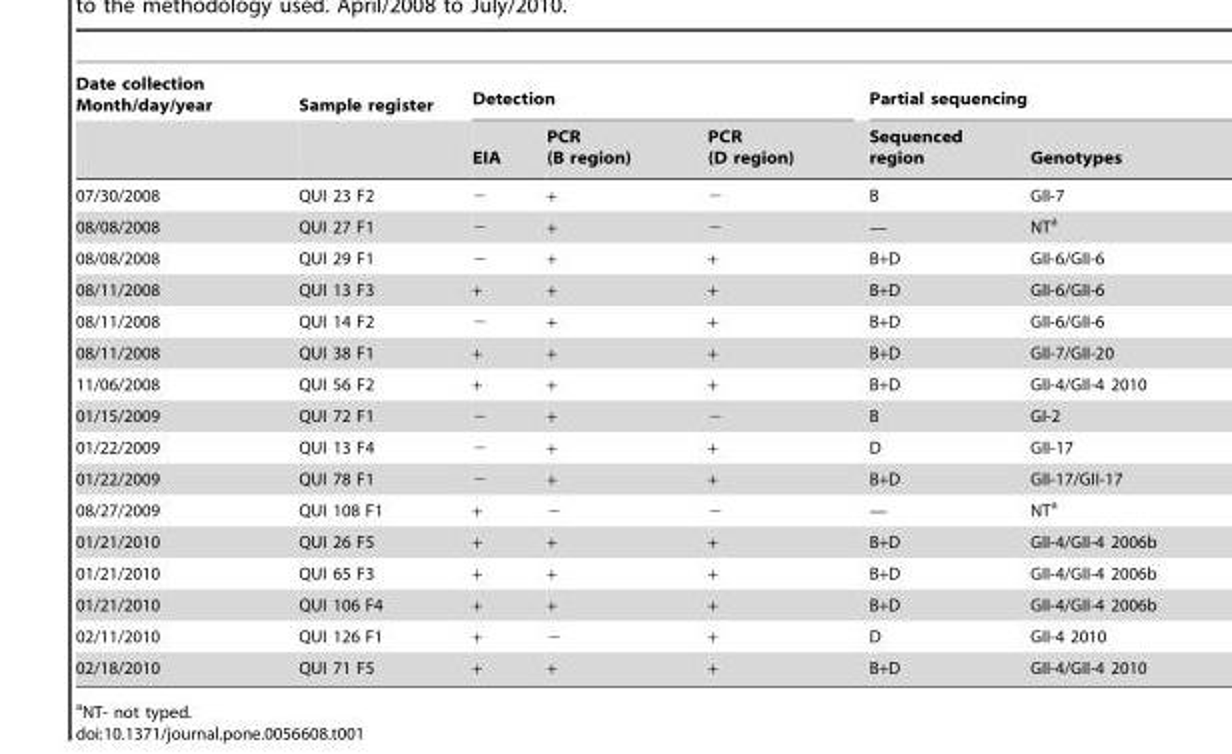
<table><thead><tr><td rowspan="2">Date collection Month/day/year</td><td rowspan="2">Sample register</td><td colspan="3">Detection</td><td colspan="2">Partial sequencing</td></tr><tr><td>EIA</td><td>PCR (B region)</td><td>PCR (D region)</td><td>Sequenced region</td><td>Genotypes</td></tr></thead><tbody><tr><td>07/30/2008</td><td>QUI 23 F2</td><td>−</td><td>+</td><td>−</td><td>B</td><td>GII-7</td></tr><tr><td>08/08/2008</td><td>QUI 27 F1</td><td>−</td><td>+</td><td>−</td><td>—</td><td>NT<sup>a</sup></td></tr><tr><td>08/08/2008</td><td>QUI 29 F1</td><td>−</td><td>+</td><td>+</td><td>B+D</td><td>GII-6/GII-6</td></tr><tr><td>08/11/2008</td><td>QUI 13 F3</td><td>+</td><td>+</td><td>+</td><td>B+D</td><td>GII-6/GII-6</td></tr><tr><td>08/11/2008</td><td>QUI 14 F2</td><td>−</td><td>+</td><td>+</td><td>B+D</td><td>GII-6/GII-6</td></tr><tr><td>08/11/2008</td><td>QUI 38 F1</td><td>+</td><td>+</td><td>+</td><td>B+D</td><td>GII-7/GII-20</td></tr><tr><td>11/06/2008</td><td>QUI 56 F2</td><td>+</td><td>+</td><td>+</td><td>B+D</td><td>GII-4/GII-4 2010</td></tr><tr><td>01/15/2009</td><td>QUI 72 F1</td><td>−</td><td>+</td><td>−</td><td>B</td><td>GI-2</td></tr><tr><td>01/22/2009</td><td>QUI 13 F4</td><td>−</td><td>+</td><td>+</td><td>D</td><td>GII-17</td></tr><tr><td>01/22/2009</td><td>QUI 78 F1</td><td>−</td><td>+</td><td>+</td><td>B+D</td><td>GII-17/GII-17</td></tr><tr><td>08/27/2009</td><td>QUI 108 F1</td><td>+</td><td>−</td><td>−</td><td>—</td><td>NT<sup>a</sup></td></tr><tr><td>01/21/2010</td><td>QUI 26 F5</td><td>+</td><td>+</td><td>+</td><td>B+D</td><td>GII-4/GII-4 2006b</td></tr><tr><td>01/21/2010</td><td>QUI 65 F3</td><td>+</td><td>+</td><td>+</td><td>B+D</td><td>GII-4/GII-4 2006b</td></tr><tr><td>01/21/2010</td><td>QUI 106 F4</td><td>+</td><td>+</td><td>+</td><td>B+D</td><td>GII-4/GII-4 2006b</td></tr><tr><td>02/11/2010</td><td>QUI 126 F1</td><td>+</td><td>−</td><td>+</td><td>D</td><td>GII-4 2010</td></tr><tr><td>02/18/2010</td><td>QUI 71 F5</td><td>+</td><td>+</td><td>+</td><td>B+D</td><td>GII-4/GII-4 2010</td></tr></tbody></table>